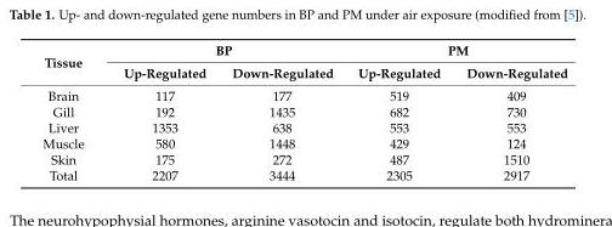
<table><thead><tr><td rowspan="2">Tissue</td><td colspan="2">BP</td><td colspan="2">PM</td></tr><tr><td>Up-Regulated</td><td>Down-Regulated</td><td>Up-Regulated</td><td>Down-Regulated</td></tr></thead><tbody><tr><td>Brain</td><td>117</td><td>177</td><td>519</td><td>409</td></tr><tr><td>Gill</td><td>192</td><td>1435</td><td>682</td><td>730</td></tr><tr><td>Liver</td><td>1353</td><td>638</td><td>553</td><td>553</td></tr><tr><td>Muscle</td><td>580</td><td>1448</td><td>429</td><td>124</td></tr><tr><td>Skin</td><td>175</td><td>272</td><td>487</td><td>1510</td></tr><tr><td>Total</td><td>2207</td><td>3444</td><td>2305</td><td>2917</td></tr></tbody></table>